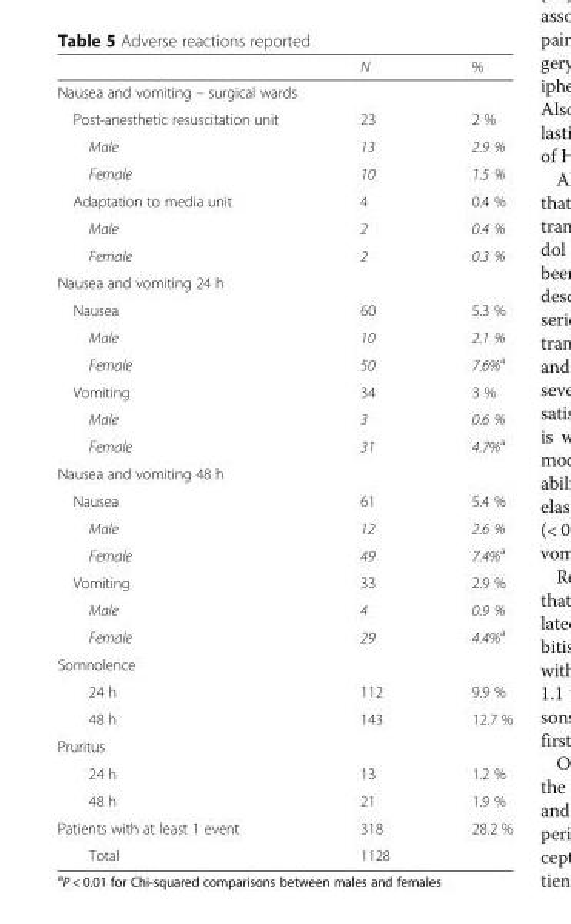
<table><thead><tr><td></td><td>N</td><td>%</td></tr></thead><tbody><tr><td colspan="3">Nausea and vomiting – surgical wards</td></tr><tr><td>Post-anesthetic resuscitation unit</td><td>23</td><td>2 %</td></tr><tr><td>Male</td><td>13</td><td>2.9 %</td></tr><tr><td>Female</td><td>10</td><td>1.5 %</td></tr><tr><td>Adaptation to media unit</td><td>4</td><td>0.4 %</td></tr><tr><td>Male</td><td>2</td><td>0.4 %</td></tr><tr><td>Female</td><td>2</td><td>0.3 %</td></tr><tr><td colspan="3">Nausea and vomiting 24 h</td></tr><tr><td>Nausea</td><td>60</td><td>5.3 %</td></tr><tr><td>Male</td><td>10</td><td>2.1 %</td></tr><tr><td>Female</td><td>50</td><td>7.6%<sup>a</sup></td></tr><tr><td>Vomiting</td><td>34</td><td>3 %</td></tr><tr><td>Male</td><td>3</td><td>0.6 %</td></tr><tr><td>Female</td><td>31</td><td>4.7%<sup>a</sup></td></tr><tr><td colspan="3">Nausea and vomiting 48 h</td></tr><tr><td>Nausea</td><td>61</td><td>5.4 %</td></tr><tr><td>Male</td><td>12</td><td>2.6 %</td></tr><tr><td>Female</td><td>49</td><td>7.4%<sup>a</sup></td></tr><tr><td>Vomiting</td><td>33</td><td>2.9 %</td></tr><tr><td>Male</td><td>4</td><td>0.9 %</td></tr><tr><td>Female</td><td>29</td><td>4.4%<sup>a</sup></td></tr><tr><td colspan="3">Somnolence</td></tr><tr><td>24 h</td><td>112</td><td>9.9 %</td></tr><tr><td>48 h</td><td>143</td><td>12.7 %</td></tr><tr><td colspan="3">Pruritus</td></tr><tr><td>24 h</td><td>13</td><td>1.2 %</td></tr><tr><td>48 h</td><td>21</td><td>1.9 %</td></tr><tr><td>Patients with at least 1 event</td><td>318</td><td>28.2 %</td></tr><tr><td>Total</td><td>1128</td><td></td></tr></tbody></table>